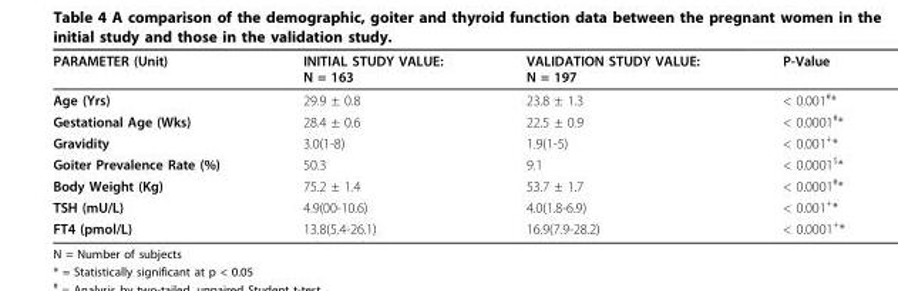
<table><thead><tr><td>PARAMETER (Unit)</td><td>INITIAL STUDY VALUE: N = 163</td><td>VALIDATION STUDY VALUE: N = 197</td><td>P-Value</td></tr></thead><tbody><tr><td>Age (Yrs)</td><td>29.9 ± 0.8</td><td>23.8 ± 1.3</td><td>&lt; 0.001<sup>#</sup>*</td></tr><tr><td>Gestational Age (Wks)</td><td>28.4 ± 0.6</td><td>22.5 ± 0.9</td><td>&lt; 0.0001<sup>#</sup>*</td></tr><tr><td>Gravidity</td><td>3.0(1-8)</td><td>1.9(1-5)</td><td>&lt; 0.001<sup>+</sup>*</td></tr><tr><td>Goiter Prevalence Rate (%)</td><td>50.3</td><td>9.1</td><td>&lt; 0.0001<sup>$</sup>*</td></tr><tr><td>Body Weight (Kg)</td><td>75.2 ± 1.4</td><td>53.7 ± 1.7</td><td>&lt; 0.0001<sup>#</sup>*</td></tr><tr><td>TSH (mU/L)</td><td>4.9(00-10.6)</td><td>4.0(1.8-6.9)</td><td>&lt; 0.001<sup>+</sup>*</td></tr><tr><td>FT4 (pmol/L)</td><td>13.8(5.4-26.1)</td><td>16.9(7.9-28.2)</td><td>&lt; 0.0001<sup>+</sup>*</td></tr></tbody></table>